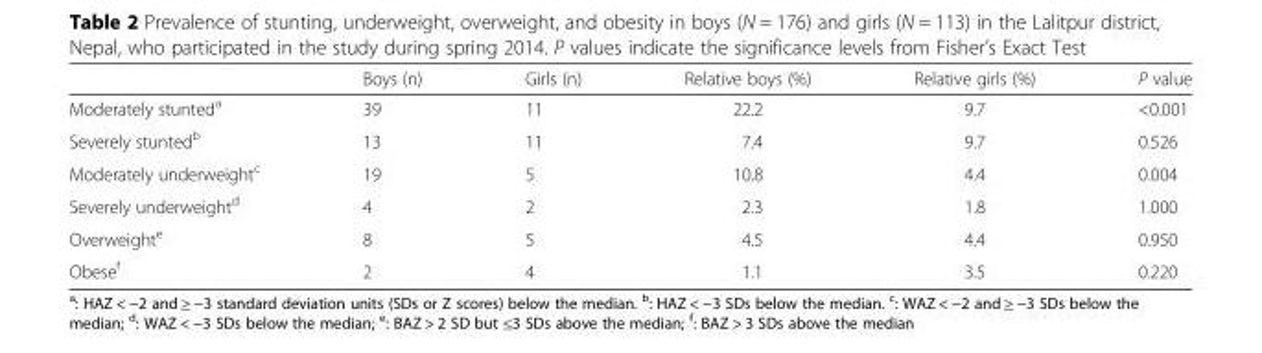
<table><thead><tr><td></td><td>Boys (n)</td><td>Girls (n)</td><td>Relative boys (%)</td><td>Relative girls (%)</td><td>P value</td></tr></thead><tbody><tr><td>Moderately stunted<sup>a</sup></td><td>39</td><td>11</td><td>22.2</td><td>9.7</td><td>&lt;0.001</td></tr><tr><td>Severely stunted<sup>b</sup></td><td>13</td><td>11</td><td>7.4</td><td>9.7</td><td>0.526</td></tr><tr><td>Moderately underweight<sup>c</sup></td><td>19</td><td>5</td><td>10.8</td><td>4.4</td><td>0.004</td></tr><tr><td>Severely underweight<sup>d</sup></td><td>4</td><td>2</td><td>2.3</td><td>1.8</td><td>1.000</td></tr><tr><td>Overweight<sup>e</sup></td><td>8</td><td>5</td><td>4.5</td><td>4.4</td><td>0.950</td></tr><tr><td>Obese<sup>f</sup></td><td>2</td><td>4</td><td>1.1</td><td>3.5</td><td>0.220</td></tr></tbody></table>